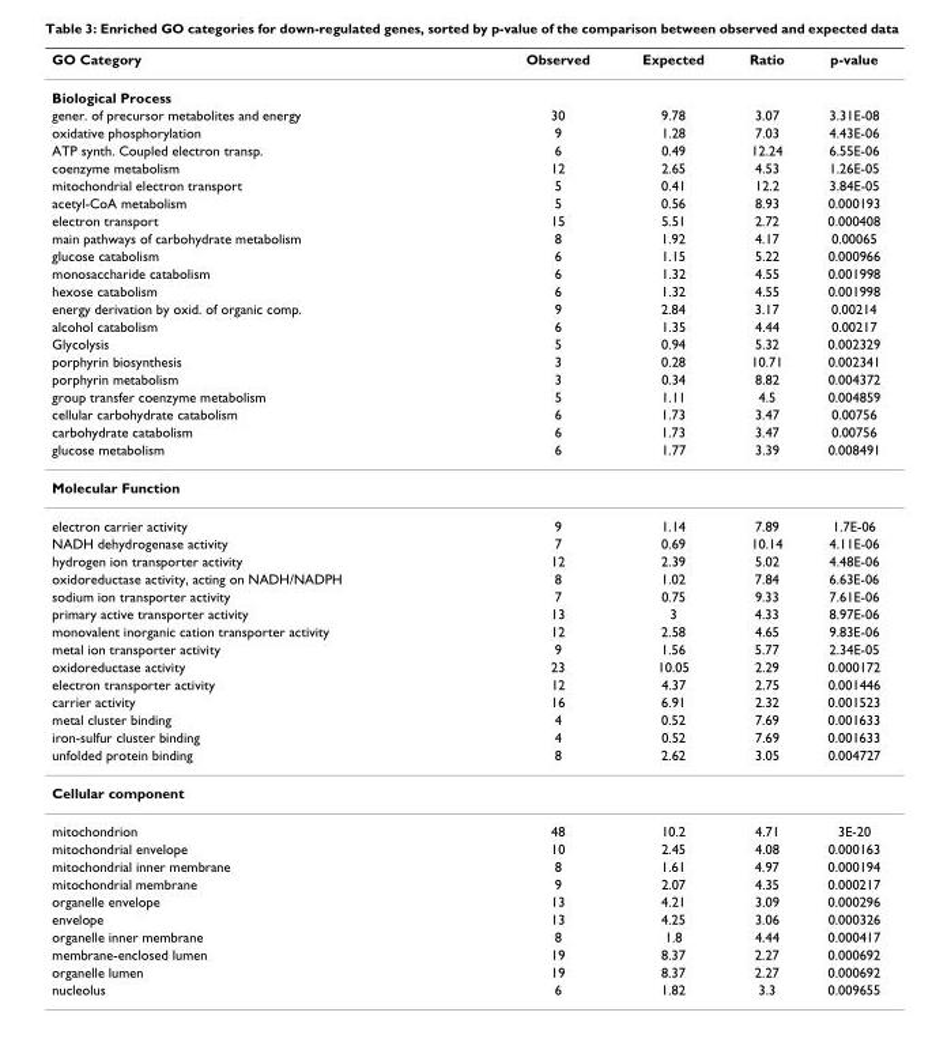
<table><thead><tr><td>GO Category</td><td>Observed</td><td>Expected</td><td>Ratio</td><td>p-value</td></tr></thead><tbody><tr><td colspan="5">Biological Process</td></tr><tr><td>gener. of precursor metabolites and energy</td><td>30</td><td>9.78</td><td>3.07</td><td>3.31E-08</td></tr><tr><td>oxidative phosphorylation</td><td>9</td><td>1.28</td><td>7.03</td><td>4.43E-06</td></tr><tr><td>ATP synth. Coupled electron transp.</td><td>6</td><td>0.49</td><td>12.24</td><td>6.55E-06</td></tr><tr><td>coenzyme metabolism</td><td>12</td><td>2.65</td><td>4.53</td><td>1.26E-05</td></tr><tr><td>mitochondrial electron transport</td><td>5</td><td>0.41</td><td>12.2</td><td>3.84E-05</td></tr><tr><td>acetyl-CoA metabolism</td><td>5</td><td>0.56</td><td>8.93</td><td>0.000193</td></tr><tr><td>electron transport</td><td>15</td><td>5.51</td><td>2.72</td><td>0.000408</td></tr><tr><td>main pathways of carbohydrate metabolism</td><td>8</td><td>1.92</td><td>4.17</td><td>0.00065</td></tr><tr><td>glucose catabolism</td><td>6</td><td>1.15</td><td>5.22</td><td>0.000966</td></tr><tr><td>monosaccharide catabolism</td><td>6</td><td>1.32</td><td>4.55</td><td>0.001998</td></tr><tr><td>hexose catabolism</td><td>6</td><td>1.32</td><td>4.55</td><td>0.001998</td></tr><tr><td>energy derivation by oxid. of organic comp.</td><td>9</td><td>2.84</td><td>3.17</td><td>0.00214</td></tr><tr><td>alcohol catabolism</td><td>6</td><td>1.35</td><td>4.44</td><td>0.00217</td></tr><tr><td>Glycolysis</td><td>5</td><td>0.94</td><td>5.32</td><td>0.002329</td></tr><tr><td>porphyrin biosynthesis</td><td>3</td><td>0.28</td><td>10.71</td><td>0.002341</td></tr><tr><td>porphyrin metabolism</td><td>3</td><td>0.34</td><td>8.82</td><td>0.004372</td></tr><tr><td>group transfer coenzyme metabolism</td><td>5</td><td>1.11</td><td>4.5</td><td>0.004859</td></tr><tr><td>cellular carbohydrate catabolism</td><td>6</td><td>1.73</td><td>3.47</td><td>0.00756</td></tr><tr><td>carbohydrate catabolism</td><td>6</td><td>1.73</td><td>3.47</td><td>0.00756</td></tr><tr><td>glucose metabolism</td><td>6</td><td>1.77</td><td>3.39</td><td>0.008491</td></tr><tr><td colspan="5">Molecular Function</td></tr><tr><td>electron carrier activity</td><td>9</td><td>1.14</td><td>7.89</td><td>1.7E-06</td></tr><tr><td>NADH dehydrogenase activity</td><td>7</td><td>0.69</td><td>10.14</td><td>4.11E-06</td></tr><tr><td>hydrogen ion transporter activity</td><td>12</td><td>2.39</td><td>5.02</td><td>4.48E-06</td></tr><tr><td>oxidoreductase activity, acting on NADH/NADPH</td><td>8</td><td>1.02</td><td>7.84</td><td>6.63E-06</td></tr><tr><td>sodium ion transporter activity</td><td>7</td><td>0.75</td><td>9.33</td><td>7.61E-06</td></tr><tr><td>primary active transporter activity</td><td>13</td><td>3</td><td>4.33</td><td>8.97E-06</td></tr><tr><td>monovalent inorganic cation transporter activity</td><td>12</td><td>2.58</td><td>4.65</td><td>9.83E-06</td></tr><tr><td>metal ion transporter activity</td><td>9</td><td>1.56</td><td>5.77</td><td>2.34E-05</td></tr><tr><td>oxidoreductase activity</td><td>23</td><td>10.05</td><td>2.29</td><td>0.000172</td></tr><tr><td>electron transporter activity</td><td>12</td><td>4.37</td><td>2.75</td><td>0.001446</td></tr><tr><td>carrier activity</td><td>16</td><td>6.91</td><td>2.32</td><td>0.001523</td></tr><tr><td>metal cluster binding</td><td>4</td><td>0.52</td><td>7.69</td><td>0.001633</td></tr><tr><td>iron-sulfur cluster binding</td><td>4</td><td>0.52</td><td>7.69</td><td>0.001633</td></tr><tr><td>unfolded protein binding</td><td>8</td><td>2.62</td><td>3.05</td><td>0.004727</td></tr><tr><td colspan="5">Cellular component</td></tr><tr><td>mitochondrion</td><td>48</td><td>10.2</td><td>4.71</td><td>3E-20</td></tr><tr><td>mitochondrial envelope</td><td>10</td><td>2.45</td><td>4.08</td><td>0.000163</td></tr><tr><td>mitochondrial inner membrane</td><td>8</td><td>1.61</td><td>4.97</td><td>0.000194</td></tr><tr><td>mitochondrial membrane</td><td>9</td><td>2.07</td><td>4.35</td><td>0.000217</td></tr><tr><td>organelle envelope</td><td>13</td><td>4.21</td><td>3.09</td><td>0.000296</td></tr><tr><td>envelope</td><td>13</td><td>4.25</td><td>3.06</td><td>0.000326</td></tr><tr><td>organelle inner membrane</td><td>8</td><td>1.8</td><td>4.44</td><td>0.000417</td></tr><tr><td>membrane-enclosed lumen</td><td>19</td><td>8.37</td><td>2.27</td><td>0.000692</td></tr><tr><td>organelle lumen</td><td>19</td><td>8.37</td><td>2.27</td><td>0.000692</td></tr><tr><td>nucleolus</td><td>6</td><td>1.82</td><td>3.3</td><td>0.009655</td></tr></tbody></table>